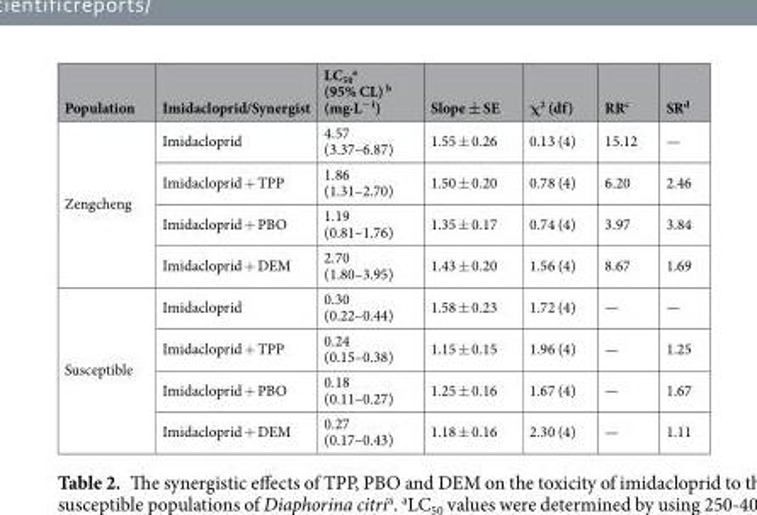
<table><thead><tr><td>Population</td><td>Imidacloprid/Synergist</td><td>LC<sub>50</sub> <sup>a</sup> (95% CL) <sup>b</sup> (mg·L<sup>−1</sup>)</td><td>Slope ± SE</td><td>χ<sup>2</sup> (df)</td><td>RR<sup>c</sup></td><td>SR<sup>d</sup></td></tr></thead><tbody><tr><td rowspan="4">Zengcheng</td><td>Imidacloprid</td><td>4.57 (3.37–6.87)</td><td>1.55 ± 0.26</td><td>0.13 (4)</td><td>15.12</td><td>—</td></tr><tr><td>Imidacloprid + TPP</td><td>1.86 (1.31–2.70)</td><td>1.50 ± 0.20</td><td>0.78 (4)</td><td>6.20</td><td>2.46</td></tr><tr><td>Imidacloprid + PBO</td><td>1.19 (0.81–1.76)</td><td>1.35 ± 0.17</td><td>0.74 (4)</td><td>3.97</td><td>3.84</td></tr><tr><td>Imidacloprid + DEM</td><td>2.70 (1.80–3.95)</td><td>1.43 ± 0.20</td><td>1.56 (4)</td><td>8.67</td><td>1.69</td></tr><tr><td rowspan="4">Susceptible</td><td>Imidacloprid</td><td>0.30 (0.22–0.44)</td><td>1.58 ± 0.23</td><td>1.72 (4)</td><td>—</td><td>—</td></tr><tr><td>Imidacloprid + TPP</td><td>0.24 (0.15–0.38)</td><td>1.15 ± 0.15</td><td>1.96 (4)</td><td>—</td><td>1.25</td></tr><tr><td>Imidacloprid + PBO</td><td>0.18 (0.11–0.27)</td><td>1.25 ± 0.16</td><td>1.67 (4)</td><td>—</td><td>1.67</td></tr><tr><td>Imidacloprid + DEM</td><td>0.27 (0.17–0.43)</td><td>1.18 ± 0.16</td><td>2.30 (4)</td><td>—</td><td>1.11</td></tr></tbody></table>